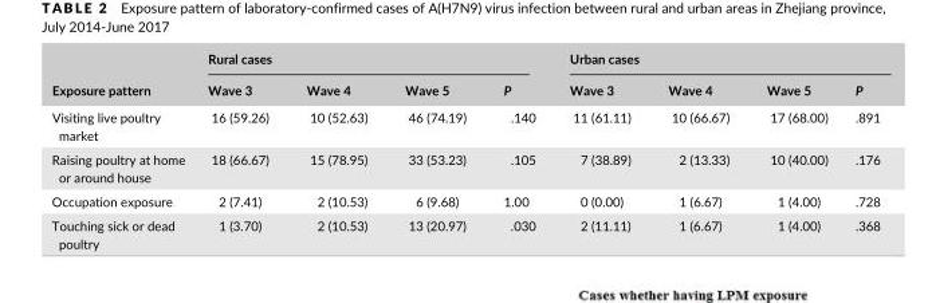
<table><thead><tr><td rowspan="2">Exposure pattern</td><td colspan="4">Rural cases</td><td colspan="4">Urban cases</td></tr><tr><td>Wave 3</td><td>Wave 4</td><td>Wave 5</td><td>P</td><td>Wave 3</td><td>Wave 4</td><td>Wave 5</td><td>P</td></tr></thead><tbody><tr><td>Visiting live poultry market</td><td>16 (59.26)</td><td>10 (52.63)</td><td>46 (74.19)</td><td>.140</td><td>11 (61.11)</td><td>10 (66.67)</td><td>17 (68.00)</td><td>.891</td></tr><tr><td>Raising poultry at home or around house</td><td>18 (66.67)</td><td>15 (78.95)</td><td>33 (53.23)</td><td>.105</td><td>7 (38.89)</td><td>2 (13.33)</td><td>10 (40.00)</td><td>.176</td></tr><tr><td>Occupation exposure</td><td>2 (7.41)</td><td>2 (10.53)</td><td>6 (9.68)</td><td>1.00</td><td>0 (0.00)</td><td>1 (6.67)</td><td>1 (4.00)</td><td>.728</td></tr><tr><td>Touching sick or dead poultry</td><td>1 (3.70)</td><td>2 (10.53)</td><td>13 (20.97)</td><td>.030</td><td>2 (11.11)</td><td>1 (6.67)</td><td>1 (4.00)</td><td>.368</td></tr></tbody></table>